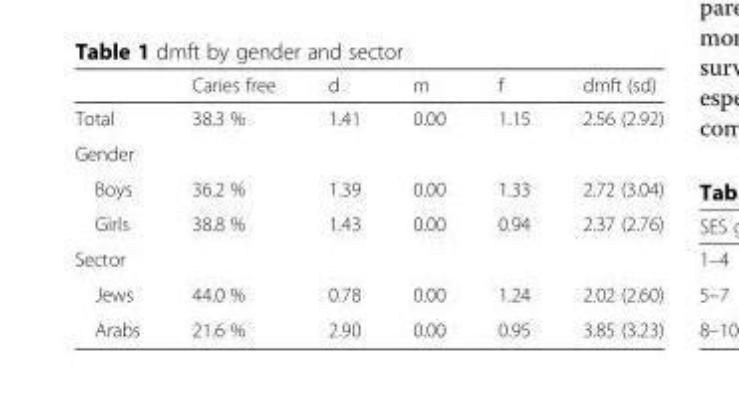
<table><thead><tr><td></td><td>Caries free</td><td>d</td><td>m</td><td>f</td><td>dmft (sd)</td></tr></thead><tbody><tr><td>Total</td><td>38.3 %</td><td>1.41</td><td>0.00</td><td>1.15</td><td>2.56 (2.92)</td></tr><tr><td colspan="6">Gender</td></tr><tr><td>Boys</td><td>36.2 %</td><td>1.39</td><td>0.00</td><td>1.33</td><td>2.72 (3.04)</td></tr><tr><td>Girls</td><td>38.8 %</td><td>1.43</td><td>0.00</td><td>0.94</td><td>2.37 (2.76)</td></tr><tr><td colspan="6">Sector</td></tr><tr><td>Jews</td><td>44.0 %</td><td>0.78</td><td>0.00</td><td>1.24</td><td>2.02 (2.60)</td></tr><tr><td>Arabs</td><td>21.6 %</td><td>2.90</td><td>0.00</td><td>0.95</td><td>3.85 (3.23)</td></tr></tbody></table>